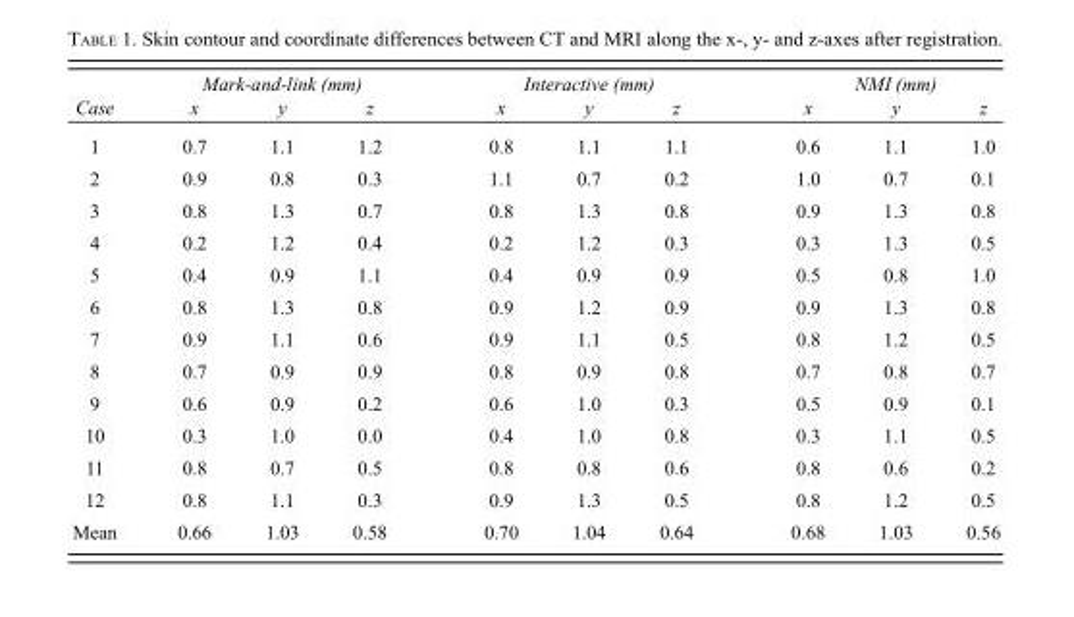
<table><thead><tr><td rowspan="2">Case</td><td colspan="3">Mark-and-link (mm)</td><td colspan="3">Interactive (mm)</td><td colspan="3">NMI (mm)</td></tr><tr><td>x</td><td>y</td><td>z</td><td>x</td><td>y</td><td>z</td><td>x</td><td>y</td><td>z</td></tr></thead><tbody><tr><td>1</td><td>0.7</td><td>1.1</td><td>1.2</td><td>0.8</td><td>1.1</td><td>1.1</td><td>0.6</td><td>1.1</td><td>1.0</td></tr><tr><td>2</td><td>0.9</td><td>0.8</td><td>0.3</td><td>1.1</td><td>0.7</td><td>0.2</td><td>1.0</td><td>0.7</td><td>0.1</td></tr><tr><td>3</td><td>0.8</td><td>1.3</td><td>0.7</td><td>0.8</td><td>1.3</td><td>0.8</td><td>0.9</td><td>1.3</td><td>0.8</td></tr><tr><td>4</td><td>0.2</td><td>1.2</td><td>0.4</td><td>0.2</td><td>1.2</td><td>0.3</td><td>0.3</td><td>1.3</td><td>0.5</td></tr><tr><td>5</td><td>0.4</td><td>0.9</td><td>1.1</td><td>0.4</td><td>0.9</td><td>0.9</td><td>0.5</td><td>0.8</td><td>1.0</td></tr><tr><td>6</td><td>0.8</td><td>1.3</td><td>0.8</td><td>0.9</td><td>1.2</td><td>0.9</td><td>0.9</td><td>1.3</td><td>0.8</td></tr><tr><td>7</td><td>0.9</td><td>1.1</td><td>0.6</td><td>0.9</td><td>1.1</td><td>0.5</td><td>0.8</td><td>1.2</td><td>0.5</td></tr><tr><td>8</td><td>0.7</td><td>0.9</td><td>0.9</td><td>0.8</td><td>0.9</td><td>0.8</td><td>0.7</td><td>0.8</td><td>0.7</td></tr><tr><td>9</td><td>0.6</td><td>0.9</td><td>0.2</td><td>0.6</td><td>1.0</td><td>0.3</td><td>0.5</td><td>0.9</td><td>0.1</td></tr><tr><td>10</td><td>0.3</td><td>1.0</td><td>0.0</td><td>0.4</td><td>1.0</td><td>0.8</td><td>0.3</td><td>1.1</td><td>0.5</td></tr><tr><td>11</td><td>0.8</td><td>0.7</td><td>0.5</td><td>0.8</td><td>0.8</td><td>0.6</td><td>0.8</td><td>0.6</td><td>0.2</td></tr><tr><td>12</td><td>0.8</td><td>1.1</td><td>0.3</td><td>0.9</td><td>1.3</td><td>0.5</td><td>0.8</td><td>1.2</td><td>0.5</td></tr><tr><td>Mean</td><td>0.66</td><td>1.03</td><td>0.58</td><td>0.70</td><td>1.04</td><td>0.64</td><td>0.68</td><td>1.03</td><td>0.56</td></tr></tbody></table>